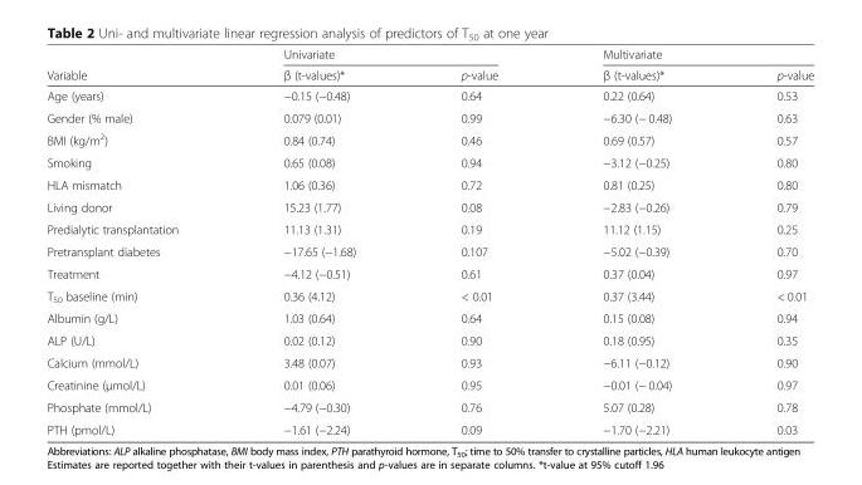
<table><thead><tr><td rowspan="2">Variable</td><td rowspan="2">Univariate β (t-values)*</td><td rowspan="2">p-value</td><td rowspan="2">Multivariate β (t-values)*</td><td rowspan="2">p-value</td></tr><tr></tr></thead><tbody><tr><td>Age (years)</td><td>−0.15 (−0.48)</td><td>0.64</td><td>0.22 (0.64)</td><td>0.53</td></tr><tr><td>Gender (% male)</td><td>0.079 (0.01)</td><td>0.99</td><td>−6.30 (− 0.48)</td><td>0.63</td></tr><tr><td>BMI (kg/m<sup>2</sup>)</td><td>0.84 (0.74)</td><td>0.46</td><td>0.69 (0.57)</td><td>0.57</td></tr><tr><td>Smoking</td><td>0.65 (0.08)</td><td>0.94</td><td>−3.12 (−0.25)</td><td>0.80</td></tr><tr><td>HLA mismatch</td><td>1.06 (0.36)</td><td>0.72</td><td>0.81 (0.25)</td><td>0.80</td></tr><tr><td>Living donor</td><td>15.23 (1.77)</td><td>0.08</td><td>−2.83 (−0.26)</td><td>0.79</td></tr><tr><td>Predialytic transplantation</td><td>11.13 (1.31)</td><td>0.19</td><td>11.12 (1.15)</td><td>0.25</td></tr><tr><td>Pretransplant diabetes</td><td>−17.65 (−1.68)</td><td>0.107</td><td>−5.02 (−0.39)</td><td>0.70</td></tr><tr><td>Treatment</td><td>−4.12 (−0.51)</td><td>0.61</td><td>0.37 (0.04)</td><td>0.97</td></tr><tr><td>T<sub>50</sub> baseline (min)</td><td>0.36 (4.12)</td><td>&lt; 0.01</td><td>0.37 (3.44)</td><td>&lt; 0.01</td></tr><tr><td>Albumin (g/L)</td><td>1.03 (0.64)</td><td>0.64</td><td>0.15 (0.08)</td><td>0.94</td></tr><tr><td>ALP (U/L)</td><td>0.02 (0.12)</td><td>0.90</td><td>0.18 (0.95)</td><td>0.35</td></tr><tr><td>Calcium (mmol/L)</td><td>3.48 (0.07)</td><td>0.93</td><td>−6.11 (−0.12)</td><td>0.90</td></tr><tr><td>Creatinine (μmol/L)</td><td>0.01 (0.06)</td><td>0.95</td><td>−0.01 (− 0.04)</td><td>0.97</td></tr><tr><td>Phosphate (mmol/L)</td><td>−4.79 (−0.30)</td><td>0.76</td><td>5.07 (0.28)</td><td>0.78</td></tr><tr><td>PTH (pmol/L)</td><td>−1.61 (−2.24)</td><td>0.09</td><td>−1.70 (−2.21)</td><td>0.03</td></tr></tbody></table>